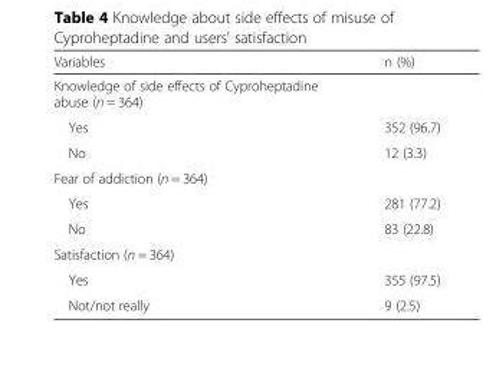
<table><thead><tr><td>Variables</td><td>n (%)</td></tr></thead><tbody><tr><td colspan="2">Knowledge of side effects of Cyproheptadine abuse (n = 364)</td></tr><tr><td>Yes</td><td>352 (96.7)</td></tr><tr><td>No</td><td>12 (3.3)</td></tr><tr><td colspan="2">Fear of addiction (n = 364)</td></tr><tr><td>Yes</td><td>281 (77.2)</td></tr><tr><td>No</td><td>83 (22.8)</td></tr><tr><td colspan="2">Satisfaction (n = 364)</td></tr><tr><td>Yes</td><td>355 (97.5)</td></tr><tr><td>Not/not really</td><td>9 (2.5)</td></tr></tbody></table>